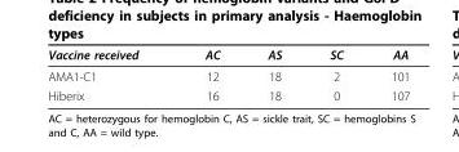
<table><thead><tr><td>Vaccine received</td><td>AC</td><td>AS</td><td>SC</td><td>AA</td></tr></thead><tbody><tr><td>AMA1-C1</td><td>12</td><td>18</td><td>2</td><td>101</td></tr><tr><td>Hiberix</td><td>16</td><td>18</td><td>0</td><td>107</td></tr></tbody></table>